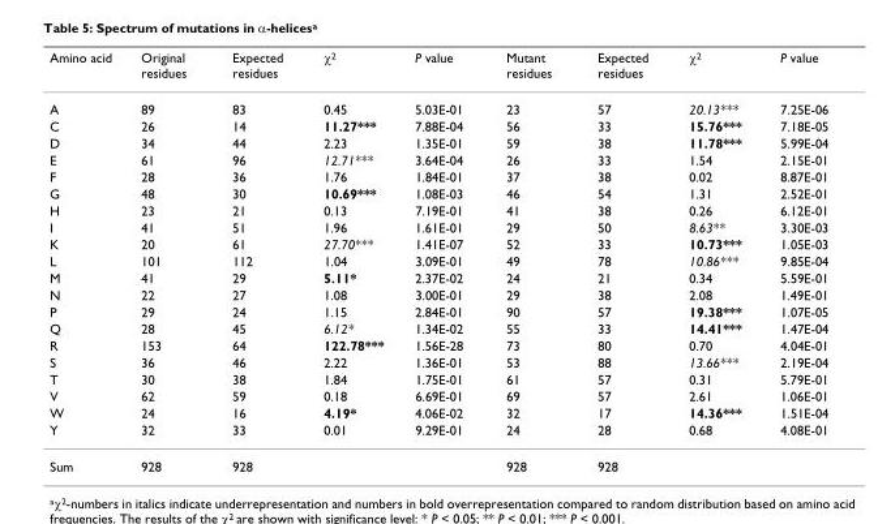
<table><thead><tr><td>Amino acid</td><td>Original residues</td><td>Expected residues</td><td>χ<sup>2</sup></td><td>P value</td><td>Mutant residues</td><td>Expected residues</td><td>χ<sup>2</sup></td><td>P value</td></tr></thead><tbody><tr><td>A</td><td>89</td><td>83</td><td>0.45</td><td>5.03E-01</td><td>23</td><td>57</td><td>20.13***</td><td>7.25E-06</td></tr><tr><td>C</td><td>26</td><td>14</td><td>11.27***</td><td>7.88E-04</td><td>56</td><td>33</td><td>15.76***</td><td>7.18E-05</td></tr><tr><td>D</td><td>34</td><td>44</td><td>2.23</td><td>1.35E-01</td><td>59</td><td>38</td><td>11.78***</td><td>5.99E-04</td></tr><tr><td>E</td><td>61</td><td>96</td><td>12.71***</td><td>3.64E-04</td><td>26</td><td>33</td><td>1.54</td><td>2.15E-01</td></tr><tr><td>F</td><td>28</td><td>36</td><td>1.76</td><td>1.84E-01</td><td>37</td><td>38</td><td>0.02</td><td>8.87E-01</td></tr><tr><td>G</td><td>48</td><td>30</td><td>10.69***</td><td>1.08E-03</td><td>46</td><td>54</td><td>1.31</td><td>2.52E-01</td></tr><tr><td>H</td><td>23</td><td>21</td><td>0.13</td><td>7.19E-01</td><td>41</td><td>38</td><td>0.26</td><td>6.12E-01</td></tr><tr><td>I</td><td>41</td><td>51</td><td>1.96</td><td>1.61E-01</td><td>29</td><td>50</td><td>8.63**</td><td>3.30E-03</td></tr><tr><td>K</td><td>20</td><td>61</td><td>27.70***</td><td>1.41E-07</td><td>52</td><td>33</td><td>10.73***</td><td>1.05E-03</td></tr><tr><td>L</td><td>101</td><td>112</td><td>1.04</td><td>3.09E-01</td><td>49</td><td>78</td><td>10.86***</td><td>9.85E-04</td></tr><tr><td>M</td><td>41</td><td>29</td><td>5.11*</td><td>2.37E-02</td><td>24</td><td>21</td><td>0.34</td><td>5.59E-01</td></tr><tr><td>N</td><td>22</td><td>27</td><td>1.08</td><td>3.00E-01</td><td>29</td><td>38</td><td>2.08</td><td>1.49E-01</td></tr><tr><td>P</td><td>29</td><td>24</td><td>1.15</td><td>2.84E-01</td><td>90</td><td>57</td><td>19.38***</td><td>1.07E-05</td></tr><tr><td>Q</td><td>28</td><td>45</td><td>6.12*</td><td>1.34E-02</td><td>55</td><td>33</td><td>14.41***</td><td>1.47E-04</td></tr><tr><td>R</td><td>153</td><td>64</td><td>122.78***</td><td>1.56E-28</td><td>73</td><td>80</td><td>0.70</td><td>4.04E-01</td></tr><tr><td>S</td><td>36</td><td>46</td><td>2.22</td><td>1.36E-01</td><td>53</td><td>88</td><td>13.66***</td><td>2.19E-04</td></tr><tr><td>T</td><td>30</td><td>38</td><td>1.84</td><td>1.75E-01</td><td>61</td><td>57</td><td>0.31</td><td>5.79E-01</td></tr><tr><td>V</td><td>62</td><td>59</td><td>0.18</td><td>6.69E-01</td><td>69</td><td>57</td><td>2.61</td><td>1.06E-01</td></tr><tr><td>W</td><td>24</td><td>16</td><td>4.19*</td><td>4.06E-02</td><td>32</td><td>17</td><td>14.36***</td><td>1.51E-04</td></tr><tr><td>Y</td><td>32</td><td>33</td><td>0.01</td><td>9.29E-01</td><td>24</td><td>28</td><td>0.68</td><td>4.08E-01</td></tr><tr><td>Sum</td><td>928</td><td>928</td><td></td><td></td><td>928</td><td>928</td><td></td><td></td></tr></tbody></table>